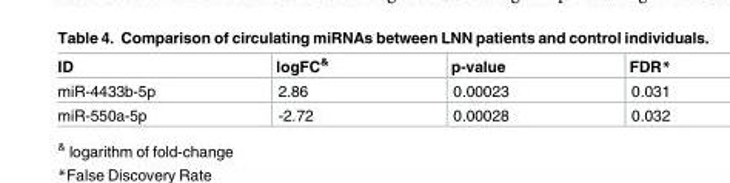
<table><thead><tr><td>ID</td><td>logFC<sup>&amp;</sup></td><td>p-value</td><td>FDR*</td></tr></thead><tbody><tr><td>miR-4433b-5p</td><td>2.86</td><td>0.00023</td><td>0.031</td></tr><tr><td>miR-550a-5p</td><td>-2.72</td><td>0.00028</td><td>0.032</td></tr></tbody></table>